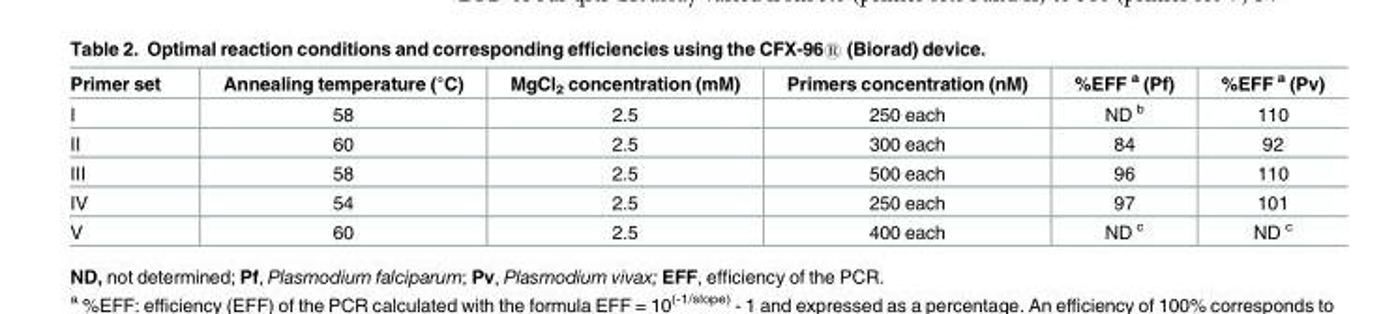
<table><thead><tr><td>Primer set</td><td>Annealing temperature (°C)</td><td>MgCl<sub>2</sub> concentration (mM)</td><td>Primers concentration (nM)</td><td>%EFF <sup>a</sup> (Pf)</td><td>%EFF <sup>a</sup> (Pv)</td></tr></thead><tbody><tr><td>I</td><td>58</td><td>2.5</td><td>250 each</td><td>ND <sup>b</sup></td><td>110</td></tr><tr><td>II</td><td>60</td><td>2.5</td><td>300 each</td><td>84</td><td>92</td></tr><tr><td>III</td><td>58</td><td>2.5</td><td>500 each</td><td>96</td><td>110</td></tr><tr><td>IV</td><td>54</td><td>2.5</td><td>250 each</td><td>97</td><td>101</td></tr><tr><td>V</td><td>60</td><td>2.5</td><td>400 each</td><td>ND <sup>c</sup></td><td>ND <sup>c</sup></td></tr></tbody></table>